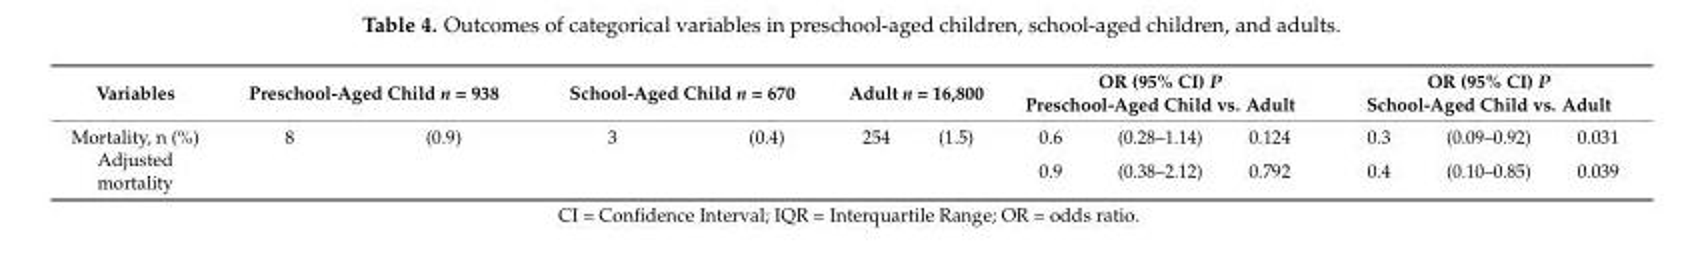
<table><thead><tr><td rowspan="2">Variables Mortality, n (%)</td><td colspan="2">Preschool-Aged Child n = 938</td><td colspan="2">School-Aged Child n = 670</td><td colspan="2">Adult n = 16,800</td><td colspan="3">OR (95% CI) P Preschool-Aged Child vs. Adult</td><td colspan="3">OR (95% CI) P School-Aged Child vs. Adult</td></tr><tr><td>8</td><td>(0.9)</td><td>3</td><td>(0.4)</td><td>254</td><td>(1.5)</td><td>0.6</td><td>(0.28–1.14)</td><td>0.124</td><td>0.3</td><td>(0.09–0.92)</td><td>0.031</td></tr></thead><tbody><tr><td>Adjusted mortality</td><td></td><td></td><td></td><td></td><td></td><td></td><td>0.9</td><td>(0.38–2.12)</td><td>0.792</td><td>0.4</td><td>(0.10–0.85)</td><td>0.039</td></tr></tbody></table>